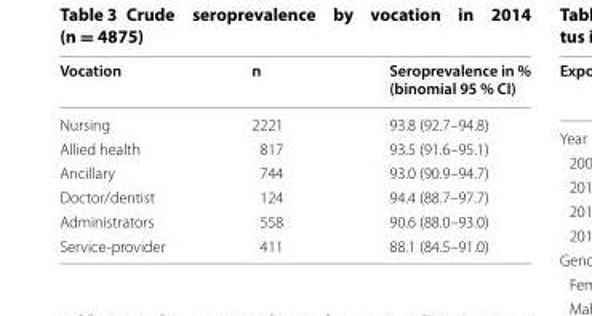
<table><thead><tr><td>Vocation</td><td>n</td><td>Seroprevalence in % (binomial 95 % CI)</td></tr></thead><tbody><tr><td>Nursing</td><td>2221</td><td>93.8 (92.7–94.8)</td></tr><tr><td>Allied health</td><td>817</td><td>93.5 (91.6–95.1)</td></tr><tr><td>Ancillary</td><td>744</td><td>93.0 (90.9–94.7)</td></tr><tr><td>Doctor/dentist</td><td>124</td><td>94.4 (88.7–97.7)</td></tr><tr><td>Administrators</td><td>558</td><td>90.6 (88.0–93.0)</td></tr><tr><td>Service-provider</td><td>411</td><td>88.1 (84.5–91.0)</td></tr></tbody></table>